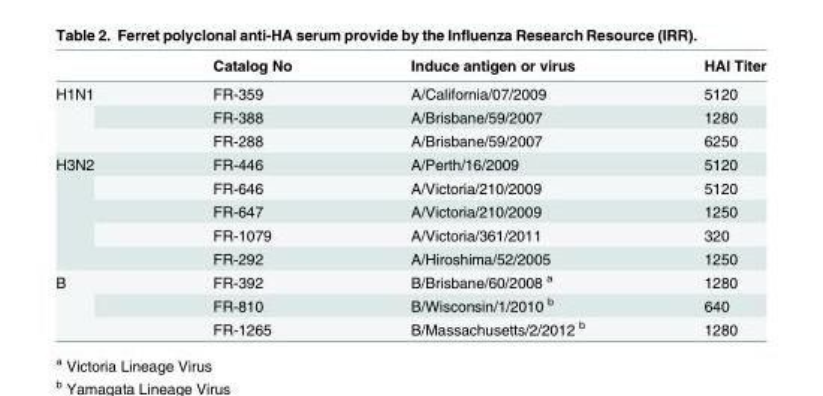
<table><thead><tr><td></td><td>Catalog No</td><td>Induce antigen or virus</td><td>HAI Titer</td></tr></thead><tbody><tr><td rowspan="3">H1N1</td><td>FR-359</td><td>A/California/07/2009</td><td>5120</td></tr><tr><td>FR-388</td><td>A/Brisbane/59/2007</td><td>1280</td></tr><tr><td>FR-288</td><td>A/Brisbane/59/2007</td><td>6250</td></tr><tr><td rowspan="5">H3N2</td><td>FR-446</td><td>A/Perth/16/2009</td><td>5120</td></tr><tr><td>FR-646</td><td>A/Victoria/210/2009</td><td>5120</td></tr><tr><td>FR-647</td><td>A/Victoria/210/2009</td><td>1250</td></tr><tr><td>FR-1079</td><td>A/Victoria/361/2011</td><td>320</td></tr><tr><td>FR-292</td><td>A/Hiroshima/52/2005</td><td>1250</td></tr><tr><td rowspan="3">B</td><td>FR-392</td><td>B/Brisbane/60/2008 <sup>a</sup></td><td>1280</td></tr><tr><td>FR-810</td><td>B/Wisconsin/1/2010 <sup>b</sup></td><td>640</td></tr><tr><td>FR-1265</td><td>B/Massachusetts/2/2012 <sup>b</sup></td><td>1280</td></tr></tbody></table>